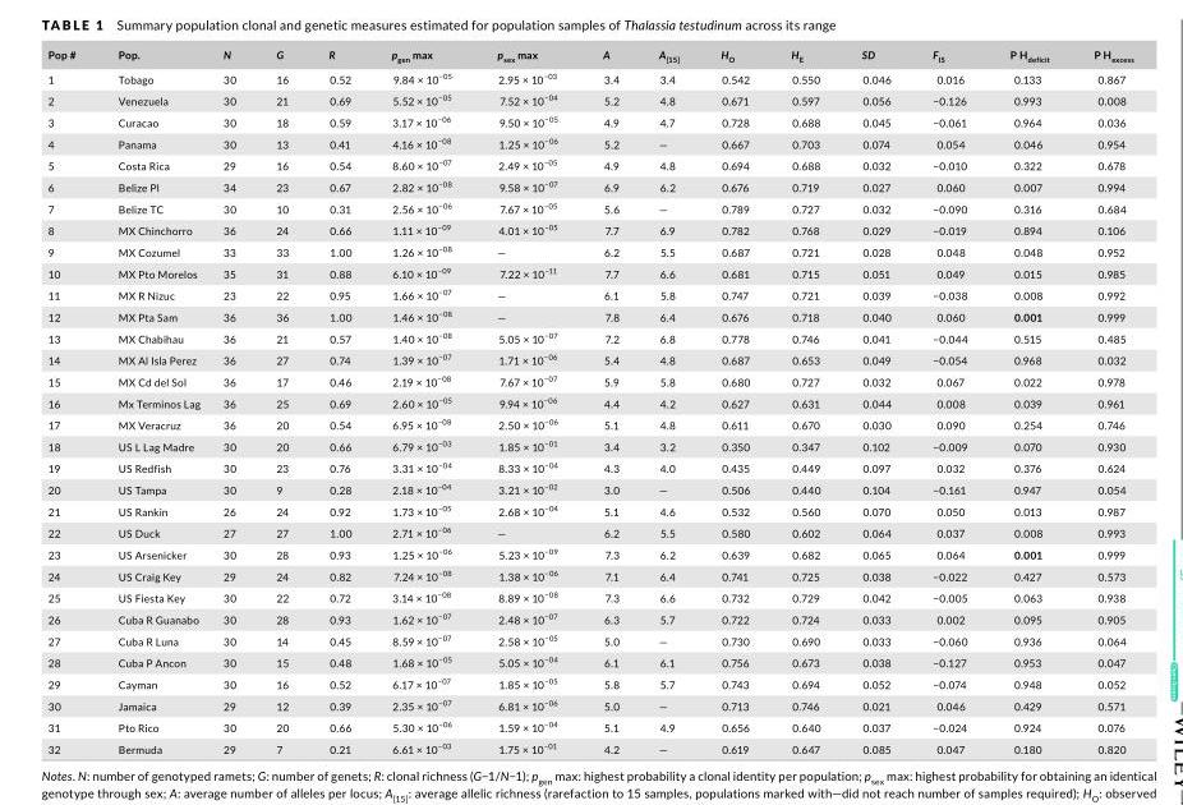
<table><thead><tr><td>Pop #</td><td>Pop.</td><td>N</td><td>G</td><td>R</td><td>p<sub>gen</sub> max</td><td>p<sub>sex</sub> max</td><td>A</td><td>A<sub>[15]</sub></td><td>H<sub>O</sub></td><td>H<sub>E</sub></td><td>SD</td><td>F<sub>IS</sub></td><td>P H<sub>deficit</sub></td><td>P H<sub>excess</sub></td></tr></thead><tbody><tr><td>1</td><td>Tobago</td><td>30</td><td>16</td><td>0.52</td><td>9.84 × 10<sup>−05</sup></td><td>2.95 × 10<sup>−03</sup></td><td>3.4</td><td>3.4</td><td>0.542</td><td>0.550</td><td>0.046</td><td>0.016</td><td>0.133</td><td>0.867</td></tr><tr><td>2</td><td>Venezuela</td><td>30</td><td>21</td><td>0.69</td><td>5.52 × 10<sup>−05</sup></td><td>7.52 × 10<sup>−04</sup></td><td>5.2</td><td>4.8</td><td>0.671</td><td>0.597</td><td>0.056</td><td>−0.126</td><td>0.993</td><td>0.008</td></tr><tr><td>3</td><td>Curacao</td><td>30</td><td>18</td><td>0.59</td><td>3.17 × 10<sup>−06</sup></td><td>9.50 × 10<sup>−05</sup></td><td>4.9</td><td>4.7</td><td>0.728</td><td>0.688</td><td>0.045</td><td>−0.061</td><td>0.964</td><td>0.036</td></tr><tr><td>4</td><td>Panama</td><td>30</td><td>13</td><td>0.41</td><td>4.16 × 10<sup>−08</sup></td><td>1.25 × 10<sup>−06</sup></td><td>5.2</td><td>—</td><td>0.667</td><td>0.703</td><td>0.074</td><td>0.054</td><td>0.046</td><td>0.954</td></tr><tr><td>5</td><td>Costa Rica</td><td>29</td><td>16</td><td>0.54</td><td>8.60 × 10<sup>−07</sup></td><td>2.49 × 10<sup>−05</sup></td><td>4.9</td><td>4.8</td><td>0.694</td><td>0.688</td><td>0.032</td><td>−0.010</td><td>0.322</td><td>0.678</td></tr><tr><td>6</td><td>Belize Pl</td><td>34</td><td>23</td><td>0.67</td><td>2.82 × 10<sup>−08</sup></td><td>9.58 × 10<sup>−07</sup></td><td>6.9</td><td>6.2</td><td>0.676</td><td>0.719</td><td>0.027</td><td>0.060</td><td>0.007</td><td>0.994</td></tr><tr><td>7</td><td>Belize TC</td><td>30</td><td>10</td><td>0.31</td><td>2.56 × 10<sup>−06</sup></td><td>7.67 × 10<sup>−05</sup></td><td>5.6</td><td>—</td><td>0.789</td><td>0.727</td><td>0.032</td><td>−0.090</td><td>0.316</td><td>0.684</td></tr><tr><td>8</td><td>MX Chinchorro</td><td>36</td><td>24</td><td>0.66</td><td>1.11 × 10<sup>−09</sup></td><td>4.01 × 10<sup>−05</sup></td><td>7.7</td><td>6.9</td><td>0.782</td><td>0.768</td><td>0.029</td><td>−0.019</td><td>0.894</td><td>0.106</td></tr><tr><td>9</td><td>MX Cozumel</td><td>33</td><td>33</td><td>1.00</td><td>1.26 × 10<sup>−08</sup></td><td>—</td><td>6.2</td><td>5.5</td><td>0.687</td><td>0.721</td><td>0.028</td><td>0.048</td><td>0.048</td><td>0.952</td></tr><tr><td>10</td><td>MX Pto Morelos</td><td>35</td><td>31</td><td>0.88</td><td>6.10 × 10<sup>−09</sup></td><td>7.22 × 10<sup>−11</sup></td><td>7.7</td><td>6.6</td><td>0.681</td><td>0.715</td><td>0.051</td><td>0.049</td><td>0.015</td><td>0.985</td></tr><tr><td>11</td><td>MX R Nizuc</td><td>23</td><td>22</td><td>0.95</td><td>1.66 × 10<sup>−07</sup></td><td>—</td><td>6.1</td><td>5.8</td><td>0.747</td><td>0.721</td><td>0.039</td><td>−0.038</td><td>0.008</td><td>0.992</td></tr><tr><td>12</td><td>MX Pta Sam</td><td>36</td><td>36</td><td>1.00</td><td>1.46 × 10<sup>−08</sup></td><td>—</td><td>7.8</td><td>6.4</td><td>0.676</td><td>0.718</td><td>0.040</td><td>0.060</td><td>0.001</td><td>0.999</td></tr><tr><td>13</td><td>MX Chabihau</td><td>36</td><td>21</td><td>0.57</td><td>1.40 × 10<sup>−08</sup></td><td>5.05 × 10<sup>−07</sup></td><td>7.2</td><td>6.8</td><td>0.778</td><td>0.746</td><td>0.041</td><td>−0.044</td><td>0.515</td><td>0.485</td></tr><tr><td>14</td><td>MX Al Isla Perez</td><td>36</td><td>27</td><td>0.74</td><td>1.39 × 10<sup>−07</sup></td><td>1.71 × 10<sup>−06</sup></td><td>5.4</td><td>4.8</td><td>0.687</td><td>0.653</td><td>0.049</td><td>−0.054</td><td>0.968</td><td>0.032</td></tr><tr><td>15</td><td>MX Cd del Sol</td><td>36</td><td>17</td><td>0.46</td><td>2.19 × 10<sup>−08</sup></td><td>7.67 × 10<sup>−07</sup></td><td>5.9</td><td>5.8</td><td>0.680</td><td>0.727</td><td>0.032</td><td>0.067</td><td>0.022</td><td>0.978</td></tr><tr><td>16</td><td>Mx Terminos Lag</td><td>36</td><td>25</td><td>0.69</td><td>2.60 × 10<sup>−05</sup></td><td>9.94 × 10<sup>−06</sup></td><td>4.4</td><td>4.2</td><td>0.627</td><td>0.631</td><td>0.044</td><td>0.008</td><td>0.039</td><td>0.961</td></tr><tr><td>17</td><td>MX Veracruz</td><td>36</td><td>20</td><td>0.54</td><td>6.95 × 10<sup>−08</sup></td><td>2.50 × 10<sup>−06</sup></td><td>5.1</td><td>4.8</td><td>0.611</td><td>0.670</td><td>0.030</td><td>0.090</td><td>0.254</td><td>0.746</td></tr><tr><td>18</td><td>US L Lag Madre</td><td>30</td><td>20</td><td>0.66</td><td>6.79 × 10<sup>−03</sup></td><td>1.85 × 10<sup>−01</sup></td><td>3.4</td><td>3.2</td><td>0.350</td><td>0.347</td><td>0.102</td><td>−0.009</td><td>0.070</td><td>0.930</td></tr><tr><td>19</td><td>US Redfish</td><td>30</td><td>23</td><td>0.76</td><td>3.31 × 10<sup>−04</sup></td><td>8.33 × 10<sup>−04</sup></td><td>4.3</td><td>4.0</td><td>0.435</td><td>0.449</td><td>0.097</td><td>0.032</td><td>0.376</td><td>0.624</td></tr><tr><td>20</td><td>US Tampa</td><td>30</td><td>9</td><td>0.28</td><td>2.18 × 10<sup>−04</sup></td><td>3.21 × 10<sup>−02</sup></td><td>3.0</td><td>—</td><td>0.506</td><td>0.440</td><td>0.104</td><td>−0.161</td><td>0.947</td><td>0.054</td></tr><tr><td>21</td><td>US Rankin</td><td>26</td><td>24</td><td>0.92</td><td>1.73 × 10<sup>−05</sup></td><td>2.68 × 10<sup>−04</sup></td><td>5.1</td><td>4.6</td><td>0.532</td><td>0.560</td><td>0.070</td><td>0.050</td><td>0.013</td><td>0.987</td></tr><tr><td>22</td><td>US Duck</td><td>27</td><td>27</td><td>1.00</td><td>2.71 × 10<sup>−06</sup></td><td>—</td><td>6.2</td><td>5.5</td><td>0.580</td><td>0.602</td><td>0.064</td><td>0.037</td><td>0.008</td><td>0.993</td></tr><tr><td>23</td><td>US Arsenicker</td><td>30</td><td>28</td><td>0.93</td><td>1.25 × 10<sup>−06</sup></td><td>5.23 × 10<sup>−09</sup></td><td>7.3</td><td>6.2</td><td>0.639</td><td>0.682</td><td>0.065</td><td>0.064</td><td>0.001</td><td>0.999</td></tr><tr><td>24</td><td>US Craig Key</td><td>29</td><td>24</td><td>0.82</td><td>7.24 × 10<sup>−08</sup></td><td>1.38 × 10<sup>−06</sup></td><td>7.1</td><td>6.4</td><td>0.741</td><td>0.725</td><td>0.038</td><td>−0.022</td><td>0.427</td><td>0.573</td></tr><tr><td>25</td><td>US Fiesta Key</td><td>30</td><td>22</td><td>0.72</td><td>3.14 × 10<sup>−08</sup></td><td>8.89 × 10<sup>−08</sup></td><td>7.3</td><td>6.6</td><td>0.732</td><td>0.729</td><td>0.042</td><td>−0.005</td><td>0.063</td><td>0.938</td></tr><tr><td>26</td><td>Cuba R Guanabo</td><td>30</td><td>28</td><td>0.93</td><td>1.62 × 10<sup>−07</sup></td><td>2.48 × 10<sup>−07</sup></td><td>6.3</td><td>5.7</td><td>0.722</td><td>0.724</td><td>0.033</td><td>0.002</td><td>0.095</td><td>0.905</td></tr><tr><td>27</td><td>Cuba R Luna</td><td>30</td><td>14</td><td>0.45</td><td>8.59 × 10<sup>−07</sup></td><td>2.58 × 10<sup>−05</sup></td><td>5.0</td><td>—</td><td>0.730</td><td>0.690</td><td>0.033</td><td>−0.060</td><td>0.936</td><td>0.064</td></tr><tr><td>28</td><td>Cuba P Ancon</td><td>30</td><td>15</td><td>0.48</td><td>1.68 × 10<sup>−05</sup></td><td>5.05 × 10<sup>−04</sup></td><td>6.1</td><td>6.1</td><td>0.756</td><td>0.673</td><td>0.038</td><td>−0.127</td><td>0.953</td><td>0.047</td></tr><tr><td>29</td><td>Cayman</td><td>30</td><td>16</td><td>0.52</td><td>6.17 × 10<sup>−07</sup></td><td>1.85 × 10<sup>−05</sup></td><td>5.8</td><td>5.7</td><td>0.743</td><td>0.694</td><td>0.052</td><td>−0.074</td><td>0.948</td><td>0.052</td></tr><tr><td>30</td><td>Jamaica</td><td>29</td><td>12</td><td>0.39</td><td>2.35 × 10<sup>−07</sup></td><td>6.81 × 10<sup>−06</sup></td><td>5.0</td><td>—</td><td>0.713</td><td>0.746</td><td>0.021</td><td>0.046</td><td>0.429</td><td>0.571</td></tr><tr><td>31</td><td>Pto Rico</td><td>30</td><td>20</td><td>0.66</td><td>5.30 × 10<sup>−06</sup></td><td>1.59 × 10<sup>−04</sup></td><td>5.1</td><td>4.9</td><td>0.656</td><td>0.640</td><td>0.037</td><td>−0.024</td><td>0.924</td><td>0.076</td></tr><tr><td>32</td><td>Bermuda</td><td>29</td><td>7</td><td>0.21</td><td>6.61 × 10<sup>−03</sup></td><td>1.75 × 10<sup>−01</sup></td><td>4.2</td><td>—</td><td>0.619</td><td>0.647</td><td>0.085</td><td>0.047</td><td>0.180</td><td>0.820</td></tr></tbody></table>